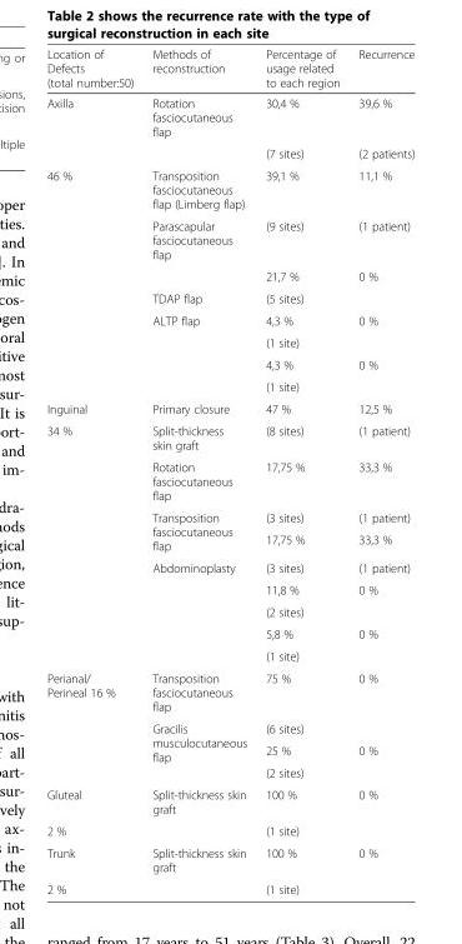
<table><thead><tr><td>Location of Defects (total number:50)</td><td>Methods of reconstruction</td><td>Percentage of usage related to each region</td><td>Recurrence</td></tr></thead><tbody><tr><td rowspan="2">Axilla</td><td>Rotation fasciocutaneous flap</td><td>30,4 %</td><td>39,6 %</td></tr><tr><td></td><td>(7 sites)</td><td>(2 patients)</td></tr><tr><td rowspan="8">46 %</td><td>Transposition fasciocutaneous flap (Limberg flap)</td><td>39,1 %</td><td>11,1 %</td></tr><tr><td>Parascapular fasciocutaneous flap</td><td>(9 sites)</td><td>(1 patient)</td></tr><tr><td></td><td>21,7 %</td><td>0 %</td></tr><tr><td>TDAP flap</td><td>(5 sites)</td><td></td></tr><tr><td rowspan="4">ALTP flap</td><td>4,3 %</td><td>0 %</td></tr><tr><td>(1 site)</td><td></td></tr><tr><td>4,3 %</td><td>0 %</td></tr><tr><td>(1 site)</td><td></td></tr><tr><td>Inguinal</td><td>Primary closure</td><td>47 %</td><td>12,5 %</td></tr><tr><td rowspan="9">34 %</td><td>Split-thickness skin graft</td><td>(8 sites)</td><td>(1 patient)</td></tr><tr><td>Rotation fasciocutaneous flap</td><td>17,75 %</td><td>33,3 %</td></tr><tr><td rowspan="2">Transposition fasciocutaneous flap</td><td>(3 sites)</td><td>(1 patient)</td></tr><tr><td>17,75 %</td><td>33,3 %</td></tr><tr><td>Abdominoplasty</td><td>(3 sites)</td><td>(1 patient)</td></tr><tr><td></td><td>11,8 %</td><td>0 %</td></tr><tr><td></td><td>(2 sites)</td><td></td></tr><tr><td></td><td>5,8 %</td><td>0 %</td></tr><tr><td></td><td>(1 site)</td><td></td></tr><tr><td rowspan="4">Perianal/ Perineal 16 %</td><td>Transposition fasciocutaneous flap</td><td>75 %</td><td>0 %</td></tr><tr><td rowspan="3">Gracilis musculocutaneous flap</td><td>(6 sites)</td><td></td></tr><tr><td>25 %</td><td>0 %</td></tr><tr><td>(2 sites)</td><td></td></tr><tr><td>Gluteal</td><td>Split-thickness skin graft</td><td>100 %</td><td>0 %</td></tr><tr><td>2 %</td><td></td><td>(1 site)</td><td></td></tr><tr><td>Trunk</td><td>Split-thickness skin graft</td><td>100 %</td><td>0 %</td></tr><tr><td>2 %</td><td></td><td>(1 site)</td><td></td></tr></tbody></table>